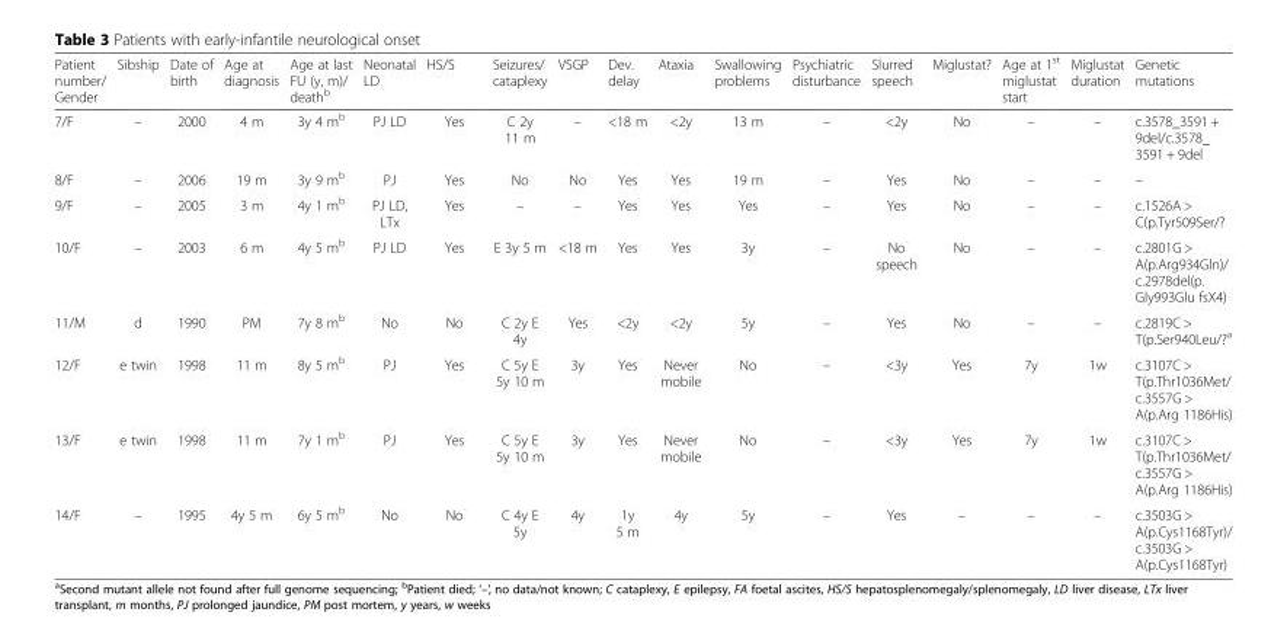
<table><thead><tr><td>Patient number/ Gender</td><td>Sibship</td><td>Date of birth</td><td>Age at diagnosis</td><td>Age at last FU (y, m)/ death<sup>b</sup></td><td>Neonatal LD</td><td>HS/S</td><td>Seizures/ cataplexy</td><td>VSGP</td><td>Dev. delay</td><td>Ataxia</td><td>Swallowing problems</td><td>Psychiatric disturbance</td><td>Slurred speech</td><td>Miglustat?</td><td>Age at 1<sup>st</sup> miglustat start</td><td>Miglustat duration</td><td>Genetic mutations</td></tr></thead><tbody><tr><td>7/F</td><td>–</td><td>2000</td><td>4 m</td><td>3y 4 m<sup>b</sup></td><td>PJ LD</td><td>Yes</td><td>C 2y 11 m</td><td>–</td><td>&lt;18 m</td><td>&lt;2y</td><td>13 m</td><td>–</td><td>&lt;2y</td><td>No</td><td>–</td><td>–</td><td>c.3578_3591 + 9del/c.3578_ 3591 + 9del</td></tr><tr><td>8/F</td><td>–</td><td>2006</td><td>19 m</td><td>3y 9 m<sup>b</sup></td><td>PJ</td><td>Yes</td><td>No</td><td>No</td><td>Yes</td><td>Yes</td><td>19 m</td><td>–</td><td>Yes</td><td>No</td><td>–</td><td>–</td><td>–</td></tr><tr><td>9/F</td><td>–</td><td>2005</td><td>3 m</td><td>4y 1 m<sup>b</sup></td><td>PJ LD, LTx</td><td>Yes</td><td>–</td><td>–</td><td>Yes</td><td>Yes</td><td>Yes</td><td>–</td><td>Yes</td><td>No</td><td>–</td><td>–</td><td>c.1526A &gt; C(p.Tyr509Ser/?</td></tr><tr><td>10/F</td><td>–</td><td>2003</td><td>6 m</td><td>4y 5 m<sup>b</sup></td><td>PJ LD</td><td>Yes</td><td>E 3y 5 m</td><td>&lt;18 m</td><td>Yes</td><td>Yes</td><td>3y</td><td>–</td><td>No speech</td><td>No</td><td>–</td><td>–</td><td>c.2801G &gt; A(p.Arg934Gln)/ c.2978del(p. Gly993Glu fsX4)</td></tr><tr><td>11/M</td><td>d</td><td>1990</td><td>PM</td><td>7y 8 m<sup>b</sup></td><td>No</td><td>No</td><td>C 2y E 4y</td><td>Yes</td><td>&lt;2y</td><td>&lt;2y</td><td>5y</td><td>–</td><td>Yes</td><td>No</td><td>–</td><td>–</td><td>c.2819C &gt; T(p.Ser940Leu/?<sup>a</sup></td></tr><tr><td>12/F</td><td>e twin</td><td>1998</td><td>11 m</td><td>8y 5 m<sup>b</sup></td><td>PJ</td><td>Yes</td><td>C 5y E 5y 10 m</td><td>3y</td><td>Yes</td><td>Never mobile</td><td>No</td><td>–</td><td>&lt;3y</td><td>Yes</td><td>7y</td><td>1w</td><td>c.3107C &gt; T(p.Thr1036Met/ c.3557G &gt; A(p.Arg 1186His)</td></tr><tr><td>13/F</td><td>e twin</td><td>1998</td><td>11 m</td><td>7y 1 m<sup>b</sup></td><td>PJ</td><td>Yes</td><td>C 5y E 5y 10 m</td><td>3y</td><td>Yes</td><td>Never mobile</td><td>No</td><td>–</td><td>&lt;3y</td><td>Yes</td><td>7y</td><td>1w</td><td>c.3107C &gt; T(p.Thr1036Met/ c.3557G &gt; A(p.Arg 1186His)</td></tr><tr><td>14/F</td><td>–</td><td>1995</td><td>4y 5 m</td><td>6y 5 m<sup>b</sup></td><td>No</td><td>No</td><td>C 4y E 5y</td><td>4y</td><td>1y 5 m</td><td>4y</td><td>5y</td><td>–</td><td>Yes</td><td>–</td><td>–</td><td>–</td><td>c.3503G &gt; A(p.Cys1168Tyr)/ c.3503G &gt; A(p.Cys1168Tyr)</td></tr></tbody></table>